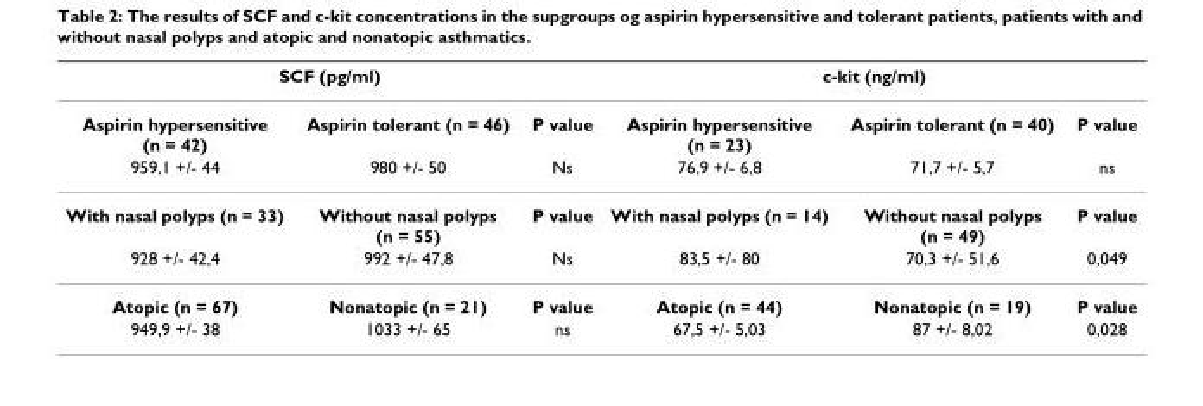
<table><thead><tr><td colspan="3">SCF (pg/ml)</td><td colspan="3">c-kit (ng/ml)</td></tr><tr><td>Aspirin hypersensitive (n = 42)</td><td>Aspirin tolerant (n = 46)</td><td>P value</td><td>Aspirin hypersensitive (n = 23)</td><td>Aspirin tolerant (n = 40)</td><td>P value</td></tr></thead><tbody><tr><td>959,1 +/- 44</td><td>980 +/- 50</td><td>Ns</td><td>76,9 +/- 6,8</td><td>71,7 +/- 5,7</td><td>ns</td></tr><tr><td>With nasal polyps (n = 33)</td><td>Without nasal polyps (n = 55)</td><td>P value</td><td>With nasal polyps (n = 14)</td><td>Without nasal polyps (n = 49)</td><td>P value</td></tr><tr><td>928 +/- 42,4</td><td>992 +/- 47,8</td><td>Ns</td><td>83,5 +/- 80</td><td>70,3 +/- 51,6</td><td>0,049</td></tr><tr><td>Atopic (n = 67)</td><td>Nonatopic (n = 21)</td><td>P value</td><td>Atopic (n = 44)</td><td>Nonatopic (n = 19)</td><td>P value</td></tr><tr><td>949,9 +/- 38</td><td>1033 +/- 65</td><td>ns</td><td>67,5 +/- 5,03</td><td>87 +/- 8,02</td><td>0,028</td></tr></tbody></table>